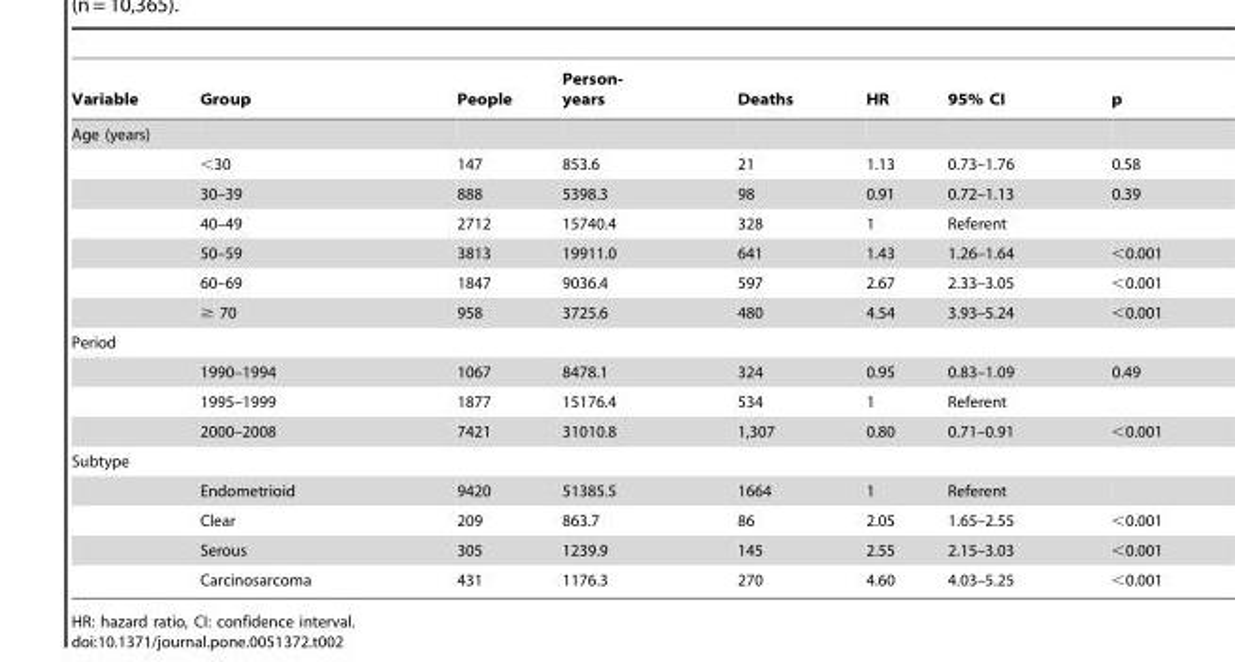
<table><thead><tr><td>Variable</td><td>Group</td><td>People</td><td>Person- years</td><td>Deaths</td><td>HR</td><td>95% CI</td><td>p</td></tr></thead><tbody><tr><td colspan="8">Age (years)</td></tr><tr><td></td><td>&lt;30</td><td>147</td><td>853.6</td><td>21</td><td>1.13</td><td>0.73–1.76</td><td>0.58</td></tr><tr><td></td><td>30–39</td><td>888</td><td>5398.3</td><td>98</td><td>0.91</td><td>0.72–1.13</td><td>0.39</td></tr><tr><td></td><td>40–49</td><td>2712</td><td>15740.4</td><td>328</td><td>1</td><td>Referent</td><td></td></tr><tr><td></td><td>50–59</td><td>3813</td><td>19911.0</td><td>641</td><td>1.43</td><td>1.26–1.64</td><td>&lt;0.001</td></tr><tr><td></td><td>60–69</td><td>1847</td><td>9036.4</td><td>597</td><td>2.67</td><td>2.33–3.05</td><td>&lt;0.001</td></tr><tr><td></td><td>≥ 70</td><td>958</td><td>3725.6</td><td>480</td><td>4.54</td><td>3.93–5.24</td><td>&lt;0.001</td></tr><tr><td colspan="8">Period</td></tr><tr><td></td><td>1990–1994</td><td>1067</td><td>8478.1</td><td>324</td><td>0.95</td><td>0.83–1.09</td><td>0.49</td></tr><tr><td></td><td>1995–1999</td><td>1877</td><td>15176.4</td><td>534</td><td>1</td><td>Referent</td><td></td></tr><tr><td></td><td>2000–2008</td><td>7421</td><td>31010.8</td><td>1,307</td><td>0.80</td><td>0.71–0.91</td><td>&lt;0.001</td></tr><tr><td colspan="8">Subtype</td></tr><tr><td></td><td>Endometrioid</td><td>9420</td><td>51385.5</td><td>1664</td><td>1</td><td>Referent</td><td></td></tr><tr><td></td><td>Clear</td><td>209</td><td>863.7</td><td>86</td><td>2.05</td><td>1.65–2.55</td><td>&lt;0.001</td></tr><tr><td></td><td>Serous</td><td>305</td><td>1239.9</td><td>145</td><td>2.55</td><td>2.15–3.03</td><td>&lt;0.001</td></tr><tr><td></td><td>Carcinosarcoma</td><td>431</td><td>1176.3</td><td>270</td><td>4.60</td><td>4.03–5.25</td><td>&lt;0.001</td></tr></tbody></table>